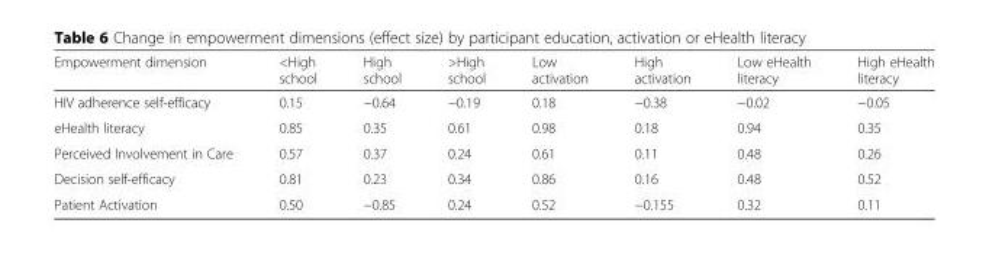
<table><thead><tr><td>Empowerment dimension</td><td>&lt;High school</td><td>High school</td><td>&gt;High school</td><td>Low activation</td><td>High activation</td><td>Low eHealth literacy</td><td>High eHealth literacy</td></tr></thead><tbody><tr><td>HIV adherence self-efficacy</td><td>0.15</td><td>−0.64</td><td>−0.19</td><td>0.18</td><td>−0.38</td><td>−0.02</td><td>−0.05</td></tr><tr><td>eHealth literacy</td><td>0.85</td><td>0.35</td><td>0.61</td><td>0.98</td><td>0.18</td><td>0.94</td><td>0.35</td></tr><tr><td>Perceived Involvement in Care</td><td>0.57</td><td>0.37</td><td>0.24</td><td>0.61</td><td>0.11</td><td>0.48</td><td>0.26</td></tr><tr><td>Decision self-efficacy</td><td>0.81</td><td>0.23</td><td>0.34</td><td>0.86</td><td>0.16</td><td>0.48</td><td>0.52</td></tr><tr><td>Patient Activation</td><td>0.50</td><td>−0.85</td><td>0.24</td><td>0.52</td><td>−0.155</td><td>0.32</td><td>0.11</td></tr></tbody></table>